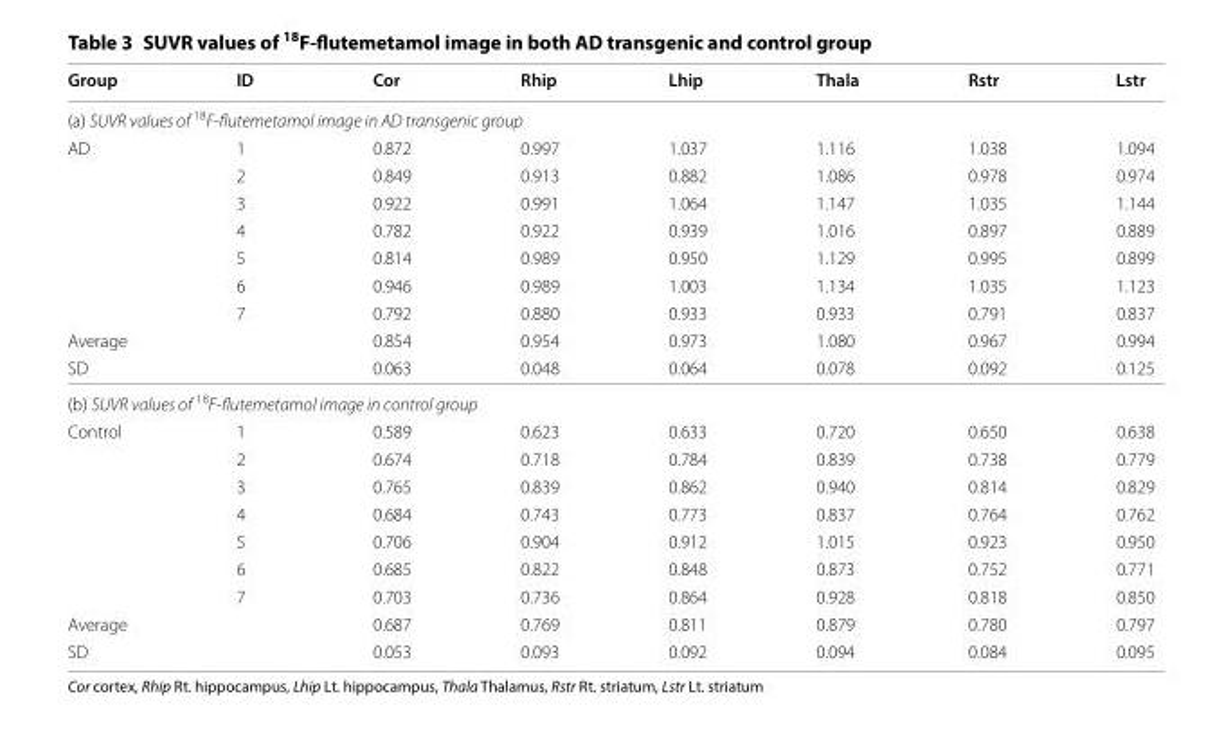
<table><thead><tr><td>Group</td><td>ID</td><td>Cor</td><td>Rhip</td><td>Lhip</td><td>Thala</td><td>Rstr</td><td>Lstr</td></tr></thead><tbody><tr><td colspan="8">(a) SUVR values of <sup>18</sup>F-flutemetamol image in AD transgenic group</td></tr><tr><td rowspan="7">AD</td><td>1</td><td>0.872</td><td>0.997</td><td>1.037</td><td>1.116</td><td>1.038</td><td>1.094</td></tr><tr><td>2</td><td>0.849</td><td>0.913</td><td>0.882</td><td>1.086</td><td>0.978</td><td>0.974</td></tr><tr><td>3</td><td>0.922</td><td>0.991</td><td>1.064</td><td>1.147</td><td>1.035</td><td>1.144</td></tr><tr><td>4</td><td>0.782</td><td>0.922</td><td>0.939</td><td>1.016</td><td>0.897</td><td>0.889</td></tr><tr><td>5</td><td>0.814</td><td>0.989</td><td>0.950</td><td>1.129</td><td>0.995</td><td>0.899</td></tr><tr><td>6</td><td>0.946</td><td>0.989</td><td>1.003</td><td>1.134</td><td>1.035</td><td>1.123</td></tr><tr><td>7</td><td>0.792</td><td>0.880</td><td>0.933</td><td>0.933</td><td>0.791</td><td>0.837</td></tr><tr><td>Average</td><td></td><td>0.854</td><td>0.954</td><td>0.973</td><td>1.080</td><td>0.967</td><td>0.994</td></tr><tr><td>SD</td><td></td><td>0.063</td><td>0.048</td><td>0.064</td><td>0.078</td><td>0.092</td><td>0.125</td></tr><tr><td colspan="8">(b) SUVR values of <sup>18</sup>F-flutemetamol image in control group</td></tr><tr><td rowspan="7">Control</td><td>1</td><td>0.589</td><td>0.623</td><td>0.633</td><td>0.720</td><td>0.650</td><td>0.638</td></tr><tr><td>2</td><td>0.674</td><td>0.718</td><td>0.784</td><td>0.839</td><td>0.738</td><td>0.779</td></tr><tr><td>3</td><td>0.765</td><td>0.839</td><td>0.862</td><td>0.940</td><td>0.814</td><td>0.829</td></tr><tr><td>4</td><td>0.684</td><td>0.743</td><td>0.773</td><td>0.837</td><td>0.764</td><td>0.762</td></tr><tr><td>5</td><td>0.706</td><td>0.904</td><td>0.912</td><td>1.015</td><td>0.923</td><td>0.950</td></tr><tr><td>6</td><td>0.685</td><td>0.822</td><td>0.848</td><td>0.873</td><td>0.752</td><td>0.771</td></tr><tr><td>7</td><td>0.703</td><td>0.736</td><td>0.864</td><td>0.928</td><td>0.818</td><td>0.850</td></tr><tr><td>Average</td><td></td><td>0.687</td><td>0.769</td><td>0.811</td><td>0.879</td><td>0.780</td><td>0.797</td></tr><tr><td>SD</td><td></td><td>0.053</td><td>0.093</td><td>0.092</td><td>0.094</td><td>0.084</td><td>0.095</td></tr></tbody></table>